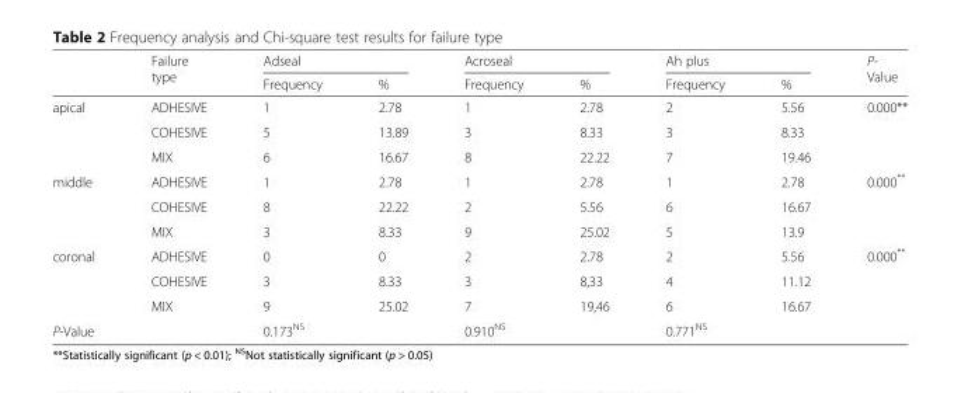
<table><thead><tr><td rowspan="2"></td><td rowspan="2">Failure type</td><td colspan="2">Adseal</td><td colspan="2">Acroseal</td><td colspan="2">Ah plus</td><td rowspan="2">P- Value</td></tr><tr><td>Frequency</td><td>%</td><td>Frequency</td><td>%</td><td>Frequency</td><td>%</td></tr></thead><tbody><tr><td rowspan="3">apical</td><td>ADHESIVE</td><td>1</td><td>2.78</td><td>1</td><td>2.78</td><td>2</td><td>5.56</td><td rowspan="3">0.000**</td></tr><tr><td>COHESIVE</td><td>5</td><td>13.89</td><td>3</td><td>8.33</td><td>3</td><td>8.33</td></tr><tr><td>MIX</td><td>6</td><td>16.67</td><td>8</td><td>22.22</td><td>7</td><td>19.46</td></tr><tr><td rowspan="3">middle</td><td>ADHESIVE</td><td>1</td><td>2.78</td><td>1</td><td>2.78</td><td>1</td><td>2.78</td><td rowspan="3">0.000**</td></tr><tr><td>COHESIVE</td><td>8</td><td>22.22</td><td>2</td><td>5.56</td><td>6</td><td>16.67</td></tr><tr><td>MIX</td><td>3</td><td>8.33</td><td>9</td><td>25.02</td><td>5</td><td>13.9</td></tr><tr><td rowspan="3">coronal</td><td>ADHESIVE</td><td>0</td><td>0</td><td>2</td><td>2.78</td><td>2</td><td>5.56</td><td rowspan="3">0.000**</td></tr><tr><td>COHESIVE</td><td>3</td><td>8.33</td><td>3</td><td>8,33</td><td>4</td><td>11.12</td></tr><tr><td>MIX</td><td>9</td><td>25.02</td><td>7</td><td>19,46</td><td>6</td><td>16.67</td></tr><tr><td colspan="2">P-Value</td><td colspan="2">0.173<sup>NS</sup></td><td colspan="2">0.910<sup>NS</sup></td><td colspan="2">0.771<sup>NS</sup></td><td></td></tr></tbody></table>